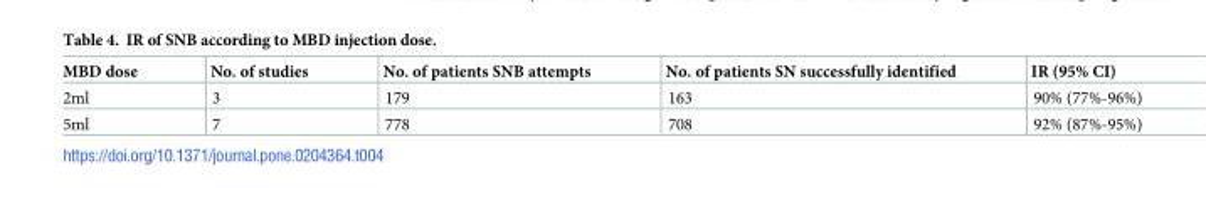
<table><thead><tr><td>MBD dose</td><td>No. of studies</td><td>No. of patients SNB attempts</td><td>No. of patients SN successfully identified</td><td>IR (95% CI)</td></tr></thead><tbody><tr><td>2ml</td><td>3</td><td>179</td><td>163</td><td>90% (77%-96%)</td></tr><tr><td>5ml</td><td>7</td><td>778</td><td>708</td><td>92% (87%-95%)</td></tr></tbody></table>